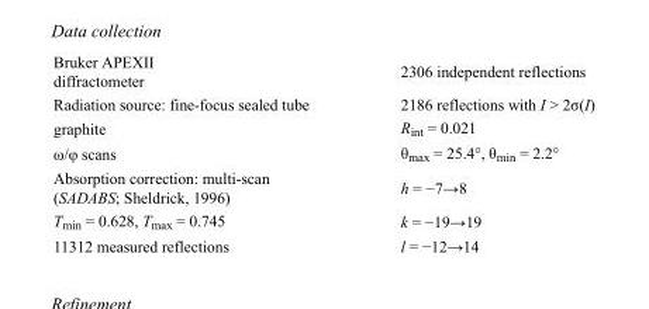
<table><tbody><tr><td>Bruker APEXII diffractometer</td><td>2306 independent reflections</td></tr><tr><td>Radiation source: fine-focus sealed tube</td><td>2186 reflections with I &gt; 2σ(I)</td></tr><tr><td>graphite</td><td>R<sub>int</sub> = 0.021</td></tr><tr><td>ω/φ scans</td><td>θ<sub>max</sub> = 25.4°, θ<sub>min</sub> = 2.2°</td></tr><tr><td>Absorption correction: multi-scan (SADABS; Sheldrick, 1996)</td><td>h = −7→8</td></tr><tr><td>T<sub>min</sub> = 0.628, T<sub>max</sub> = 0.745</td><td>k = −19→19</td></tr><tr><td>11312 measured reflections</td><td>l = −12→14</td></tr></tbody></table>